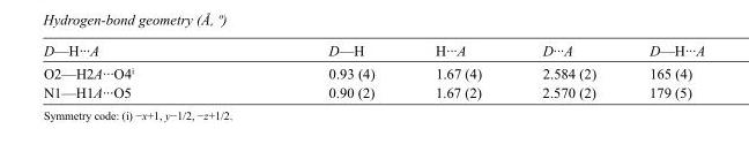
<table><tbody><tr><td>D—H···A</td><td>D—H</td><td>H···A</td><td>D···A</td><td>D—H···A</td></tr><tr><td>O2—H2A···O4<sup>i</sup></td><td>0.93 (4)</td><td>1.67 (4)</td><td>2.584 (2)</td><td>165 (4)</td></tr><tr><td>N1—H1A···O5</td><td>0.90 (2)</td><td>1.67 (2)</td><td>2.570 (2)</td><td>179 (5)</td></tr></tbody></table>